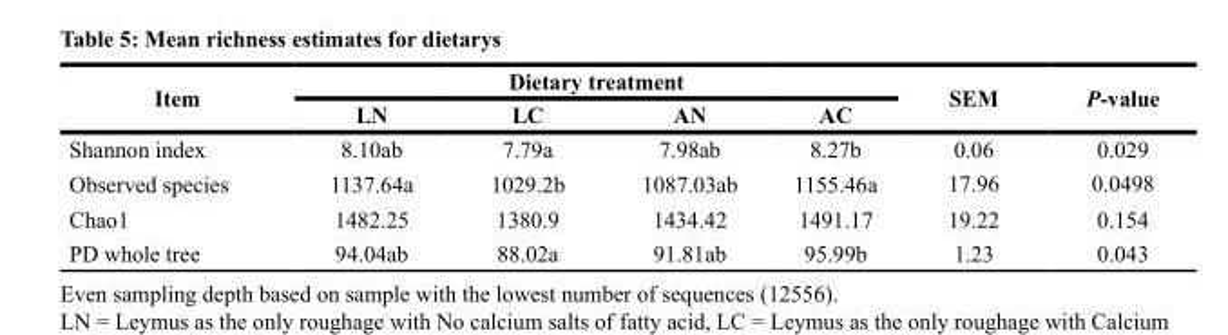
<table><thead><tr><td rowspan="2">Item</td><td colspan="4">Dietary treatment</td><td rowspan="2">SEM</td><td rowspan="2">P-value</td></tr><tr><td>LN</td><td>LC</td><td>AN</td><td>AC</td></tr></thead><tbody><tr><td>Shannon index</td><td>8.10ab</td><td>7.79a</td><td>7.98ab</td><td>8.27b</td><td>0.06</td><td>0.029</td></tr><tr><td>Observed species</td><td>1137.64a</td><td>1029.2b</td><td>1087.03ab</td><td>1155.46a</td><td>17.96</td><td>0.0498</td></tr><tr><td>Chao1</td><td>1482.25</td><td>1380.9</td><td>1434.42</td><td>1491.17</td><td>19.22</td><td>0.154</td></tr><tr><td>PD whole tree</td><td>94.04ab</td><td>88.02a</td><td>91.81ab</td><td>95.99b</td><td>1.23</td><td>0.043</td></tr></tbody></table>